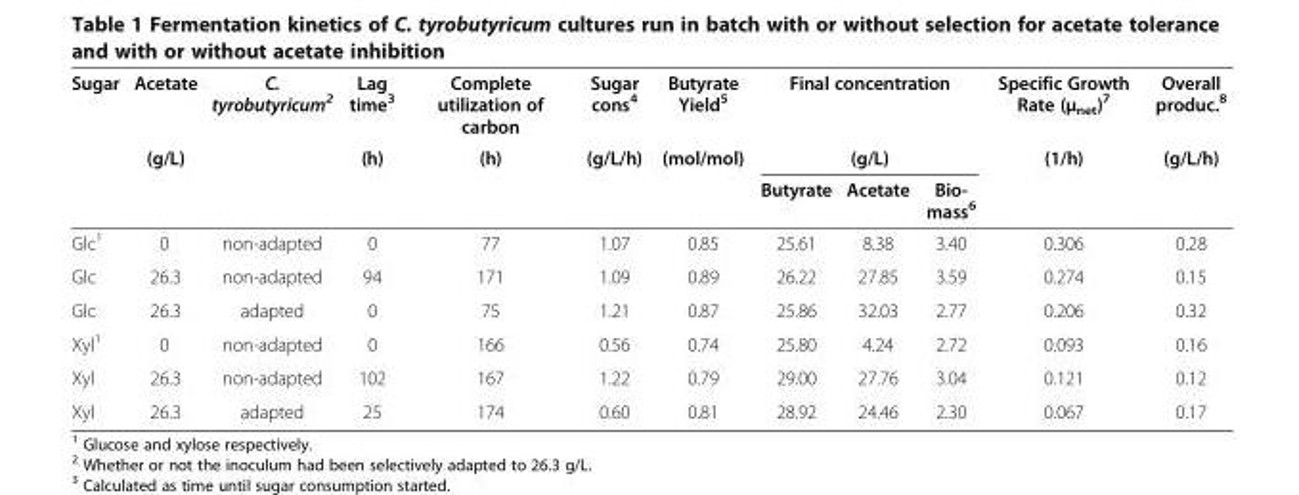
<table><thead><tr><td rowspan="3">Sugar</td><td rowspan="3">Acetate (g/L)</td><td rowspan="3">C. tyrobutyricum<sup>2</sup></td><td rowspan="3">Lag time<sup>3</sup> (h)</td><td rowspan="3">Complete utilization of carbon (h)</td><td rowspan="3">Sugar cons<sup>4</sup> (g/L/h)</td><td rowspan="3">Butyrate Yield<sup>5</sup> (mol/mol)</td><td rowspan="2" colspan="3">Final concentration (g/L)</td><td rowspan="3">Specific Growth Rate (μ<sub>net</sub>)<sup>7</sup> (1/h)</td><td rowspan="3">Overall produc.<sup>8</sup> (g/L/h)</td></tr><tr></tr><tr><td>Butyrate</td><td>Acetate</td><td>Bio- mass<sup>6</sup></td></tr></thead><tbody><tr><td>Glc<sup>1</sup></td><td>0</td><td>non-adapted</td><td>0</td><td>77</td><td>1.07</td><td>0.85</td><td>25.61</td><td>8.38</td><td>3.40</td><td>0.306</td><td>0.28</td></tr><tr><td>Glc</td><td>26.3</td><td>non-adapted</td><td>94</td><td>171</td><td>1.09</td><td>0.89</td><td>26.22</td><td>27.85</td><td>3.59</td><td>0.274</td><td>0.15</td></tr><tr><td>Glc</td><td>26.3</td><td>adapted</td><td>0</td><td>75</td><td>1.21</td><td>0.87</td><td>25.86</td><td>32.03</td><td>2.77</td><td>0.206</td><td>0.32</td></tr><tr><td>Xyl<sup>1</sup></td><td>0</td><td>non-adapted</td><td>0</td><td>166</td><td>0.56</td><td>0.74</td><td>25.80</td><td>4.24</td><td>2.72</td><td>0.093</td><td>0.16</td></tr><tr><td>Xyl</td><td>26.3</td><td>non-adapted</td><td>102</td><td>167</td><td>1.22</td><td>0.79</td><td>29.00</td><td>27.76</td><td>3.04</td><td>0.121</td><td>0.12</td></tr><tr><td>Xyl</td><td>26.3</td><td>adapted</td><td>25</td><td>174</td><td>0.60</td><td>0.81</td><td>28.92</td><td>24.46</td><td>2.30</td><td>0.067</td><td>0.17</td></tr></tbody></table>